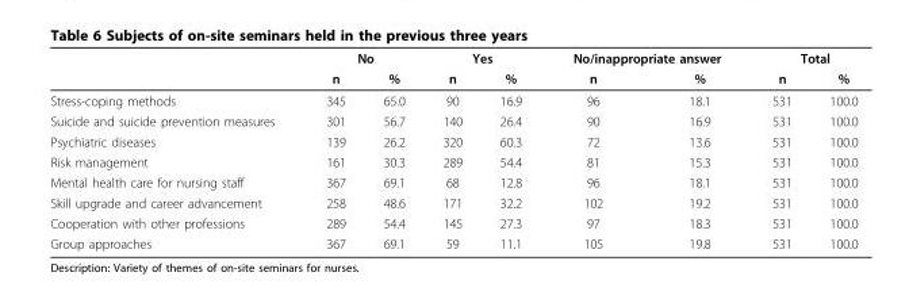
<table><thead><tr><td rowspan="2"></td><td colspan="2">No</td><td colspan="2">Yes</td><td colspan="2">No/inappropriate answer</td><td colspan="2">Total</td></tr><tr><td>n</td><td>%</td><td>n</td><td>%</td><td>n</td><td>%</td><td>n</td><td>%</td></tr></thead><tbody><tr><td>Stress-coping methods</td><td>345</td><td>65.0</td><td>90</td><td>16.9</td><td>96</td><td>18.1</td><td>531</td><td>100.0</td></tr><tr><td>Suicide and suicide prevention measures</td><td>301</td><td>56.7</td><td>140</td><td>26.4</td><td>90</td><td>16.9</td><td>531</td><td>100.0</td></tr><tr><td>Psychiatric diseases</td><td>139</td><td>26.2</td><td>320</td><td>60.3</td><td>72</td><td>13.6</td><td>531</td><td>100.0</td></tr><tr><td>Risk management</td><td>161</td><td>30.3</td><td>289</td><td>54.4</td><td>81</td><td>15.3</td><td>531</td><td>100.0</td></tr><tr><td>Mental health care for nursing staff</td><td>367</td><td>69.1</td><td>68</td><td>12.8</td><td>96</td><td>18.1</td><td>531</td><td>100.0</td></tr><tr><td>Skill upgrade and career advancement</td><td>258</td><td>48.6</td><td>171</td><td>32.2</td><td>102</td><td>19.2</td><td>531</td><td>100.0</td></tr><tr><td>Cooperation with other professions</td><td>289</td><td>54.4</td><td>145</td><td>27.3</td><td>97</td><td>18.3</td><td>531</td><td>100.0</td></tr><tr><td>Group approaches</td><td>367</td><td>69.1</td><td>59</td><td>11.1</td><td>105</td><td>19.8</td><td>531</td><td>100.0</td></tr></tbody></table>